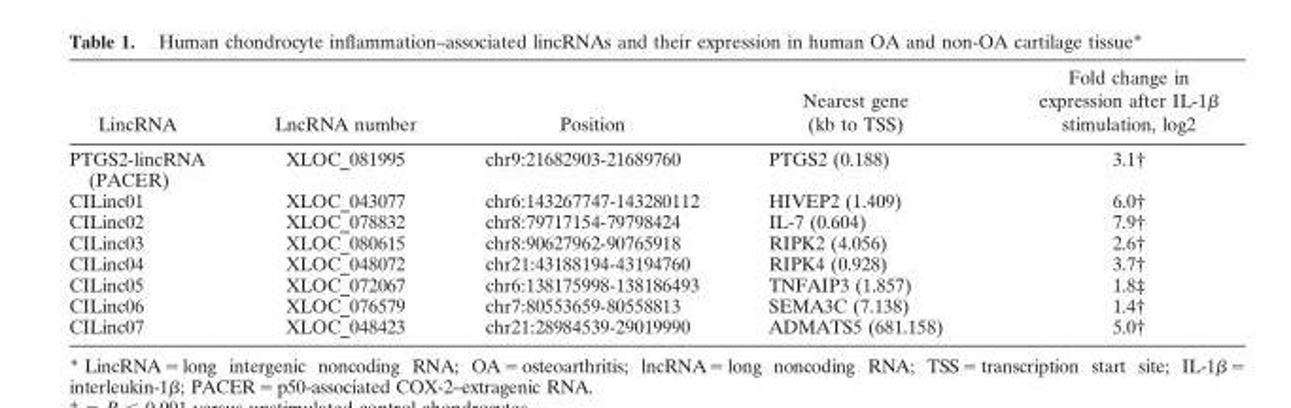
<table><thead><tr><td>LincRNA</td><td>LncRNA number</td><td>Position</td><td>Nearest gene (kb to TSS)</td><td>Fold change in expression after IL-1β stimulation, log2</td></tr></thead><tbody><tr><td>PTGS2-lincRNA (PACER)</td><td>XLOC_081995</td><td>chr9:21682903-21689760</td><td>PTGS2 (0.188)</td><td>3.1†</td></tr><tr><td>CILinc01</td><td>XLOC_043077</td><td>chr6:143267747-143280112</td><td>HIVEP2 (1.409)</td><td>6.0†</td></tr><tr><td>CILinc02</td><td>XLOC_078832</td><td>chr8:79717154-79798424</td><td>IL-7 (0.604)</td><td>7.9†</td></tr><tr><td>CILinc03</td><td>XLOC_080615</td><td>chr8:90627962-90765918</td><td>RIPK2 (4.056)</td><td>2.6†</td></tr><tr><td>CILinc04</td><td>XLOC_048072</td><td>chr21:43188194-43194760</td><td>RIPK4 (0.928)</td><td>3.7†</td></tr><tr><td>CILinc05</td><td>XLOC_072067</td><td>chr6:138175998-138186493</td><td>TNFAIP3 (1.857)</td><td>1.8‡</td></tr><tr><td>CILinc06</td><td>XLOC_076579</td><td>chr7:80553659-80558813</td><td>SEMA3C (7.138)</td><td>1.4†</td></tr><tr><td>CILinc07</td><td>XLOC_048423</td><td>chr21:28984539-29019990</td><td>ADMATS5 (681.158)</td><td>5.0†</td></tr></tbody></table>